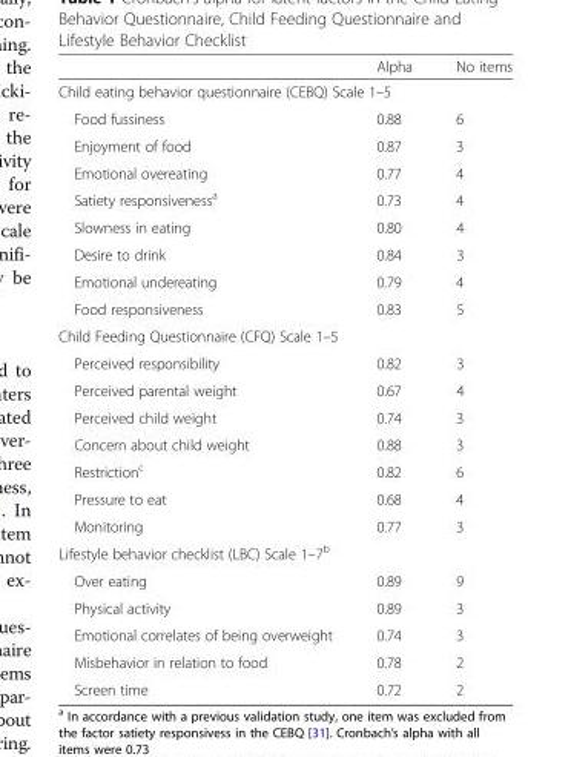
<table><thead><tr><td></td><td>Alpha</td><td>No items</td></tr></thead><tbody><tr><td colspan="3">Child eating behavior questionnaire (CEBQ) Scale 1–5</td></tr><tr><td>Food fussiness</td><td>0.88</td><td>6</td></tr><tr><td>Enjoyment of food</td><td>0.87</td><td>3</td></tr><tr><td>Emotional overeating</td><td>0.77</td><td>4</td></tr><tr><td>Satiety responsiveness<sup>a</sup></td><td>0.73</td><td>4</td></tr><tr><td>Slowness in eating</td><td>0.80</td><td>4</td></tr><tr><td>Desire to drink</td><td>0.84</td><td>3</td></tr><tr><td>Emotional undereating</td><td>0.79</td><td>4</td></tr><tr><td>Food responsiveness</td><td>0.83</td><td>5</td></tr><tr><td colspan="3">Child Feeding Questionnaire (CFQ) Scale 1–5</td></tr><tr><td>Perceived responsibility</td><td>0.82</td><td>3</td></tr><tr><td>Perceived parental weight</td><td>0.67</td><td>4</td></tr><tr><td>Perceived child weight</td><td>0.74</td><td>3</td></tr><tr><td>Concern about child weight</td><td>0.88</td><td>3</td></tr><tr><td>Restriction<sup>c</sup></td><td>0.82</td><td>6</td></tr><tr><td>Pressure to eat</td><td>0.68</td><td>4</td></tr><tr><td>Monitoring</td><td>0.77</td><td>3</td></tr><tr><td colspan="3">Lifestyle behavior checklist (LBC) Scale 1–7<sup>b</sup></td></tr><tr><td>Over eating</td><td>0.89</td><td>9</td></tr><tr><td>Physical activity</td><td>0.89</td><td>3</td></tr><tr><td>Emotional correlates of being overweight</td><td>0.74</td><td>3</td></tr><tr><td>Misbehavior in relation to food</td><td>0.78</td><td>2</td></tr><tr><td>Screen time</td><td>0.72</td><td>2</td></tr></tbody></table>